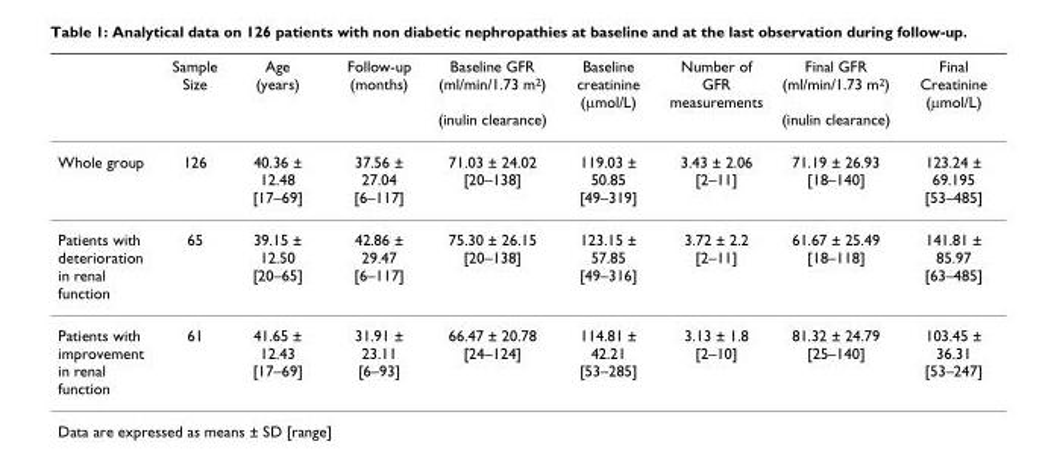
<table><thead><tr><td></td><td>Sample Size</td><td>Age (years)</td><td>Follow-up (months)</td><td>Baseline GFR (ml/min/1.73 m<sup>2</sup>) (inulin clearance)</td><td>Baseline creatinine (μmol/L)</td><td>Number of GFR measurements</td><td>Final GFR (ml/min/1.73 m<sup>2</sup>) (inulin clearance)</td><td>Final Creatinine (μmol/L)</td></tr></thead><tbody><tr><td>Whole group</td><td>126</td><td>40.36 ± 12.48 [17–69]</td><td>37.56 ± 27.04 [6–117]</td><td>71.03 ± 24.02 [20–138]</td><td>119.03 ± 50.85 [49–319]</td><td>3.43 ± 2.06 [2–11]</td><td>71.19 ± 26.93 [18–140]</td><td>123.24 ± 69.195 [53–485]</td></tr><tr><td>Patients with deterioration in renal function</td><td>65</td><td>39.15 ± 12.50 [20–65]</td><td>42.86 ± 29.47 [6–117]</td><td>75.30 ± 26.15 [20–138]</td><td>123.15 ± 57.85 [49–316]</td><td>3.72 ± 2.2 [2–11]</td><td>61.67 ± 25.49 [18–118]</td><td>141.81 ± 85.97 [63–485]</td></tr><tr><td>Patients with improvement in renal function</td><td>61</td><td>41.65 ± 12.43 [17–69]</td><td>31.91 ± 23.11 [6–93]</td><td>66.47 ± 20.78 [24–124]</td><td>114.81 ± 42.21 [53–285]</td><td>3.13 ± 1.8 [2–10]</td><td>81.32 ± 24.79 [25–140]</td><td>103.45 ± 36.31 [53–247]</td></tr></tbody></table>